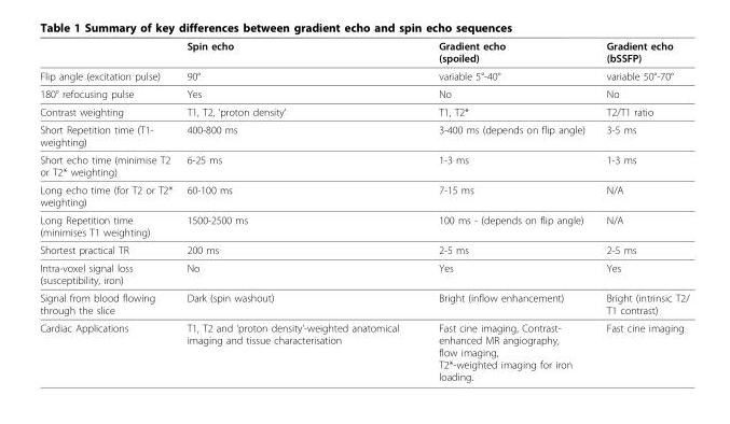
<table><thead><tr><td></td><td>Spin echo</td><td>Gradient echo (spoiled)</td><td>Gradient echo (bSSFP)</td></tr></thead><tbody><tr><td>Flip angle (excitation pulse)</td><td>90°</td><td>variable 5°-40°</td><td>variable 50°-70°</td></tr><tr><td>180° refocusing pulse</td><td>Yes</td><td>No</td><td>No</td></tr><tr><td>Contrast weighting</td><td>T1, T2, ‘proton density’</td><td>T1, T2*</td><td>T2/T1 ratio</td></tr><tr><td>Short Repetition time (T1- weighting)</td><td>400-800 ms</td><td>3-400 ms (depends on flip angle)</td><td>3-5 ms</td></tr><tr><td>Short echo time (minimise T2 or T2* weighting)</td><td>6-25 ms</td><td>1-3 ms</td><td>1-3 ms</td></tr><tr><td>Long echo time (for T2 or T2* weighting)</td><td>60-100 ms</td><td>7-15 ms</td><td>N/A</td></tr><tr><td>Long Repetition time (minimises T1 weighting)</td><td>1500-2500 ms</td><td>100 ms - (depends on flip angle)</td><td>N/A</td></tr><tr><td>Shortest practical TR</td><td>200 ms</td><td>2-5 ms</td><td>2-5 ms</td></tr><tr><td>Intra-voxel signal loss (susceptibility, iron)</td><td>No</td><td>Yes</td><td>Yes</td></tr><tr><td>Signal from blood flowing through the slice</td><td>Dark (spin washout)</td><td>Bright (inflow enhancement)</td><td>Bright (intrinsic T2/ T1 contrast)</td></tr><tr><td>Cardiac Applications</td><td>T1, T2 and ‘proton density’-weighted anatomical imaging and tissue characterisation</td><td>Fast cine imaging, Contrast- enhanced MR angiography, flow imaging, T2*-weighted imaging for iron loading.</td><td>Fast cine imaging</td></tr></tbody></table>